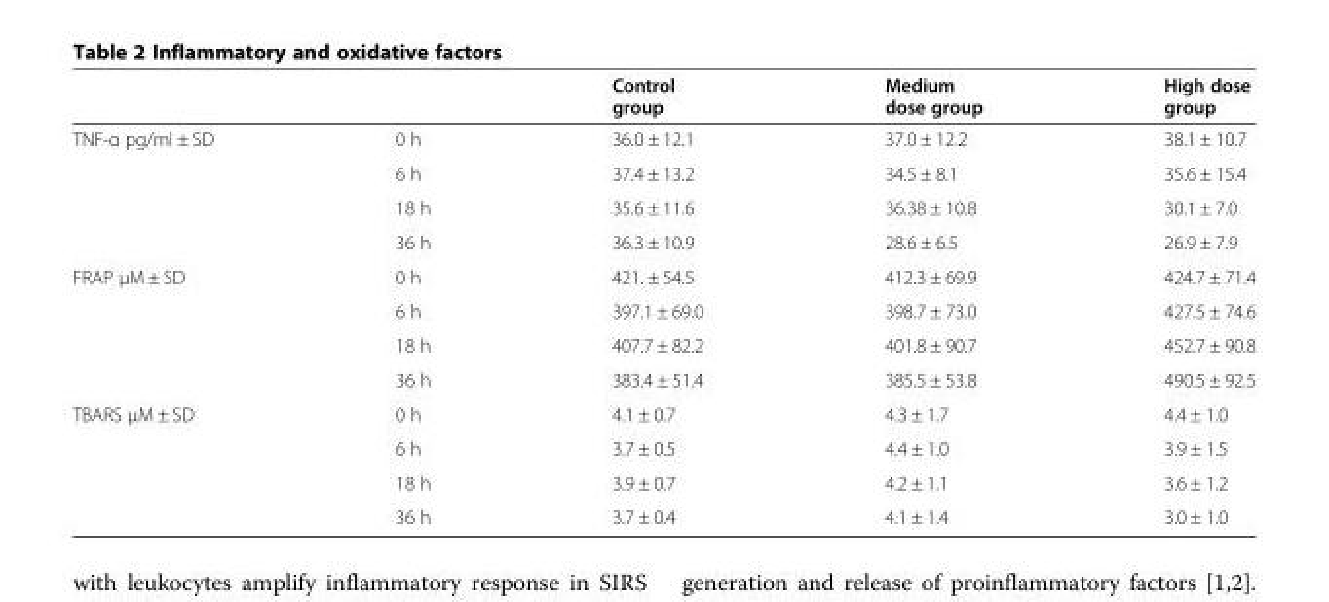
<table><thead><tr><td></td><td></td><td>Control group</td><td>Medium dose group</td><td>High dose group</td></tr></thead><tbody><tr><td rowspan="4">TNF-α pg/ml ± SD</td><td>0 h</td><td>36.0 ± 12.1</td><td>37.0 ± 12.2</td><td>38.1 ± 10.7</td></tr><tr><td>6 h</td><td>37.4 ± 13.2</td><td>34.5 ± 8.1</td><td>35.6 ± 15.4</td></tr><tr><td>18 h</td><td>35.6 ± 11.6</td><td>36.38 ± 10.8</td><td>30.1 ± 7.0</td></tr><tr><td>36 h</td><td>36.3 ± 10.9</td><td>28.6 ± 6.5</td><td>26.9 ± 7.9</td></tr><tr><td rowspan="4">FRAP μM ± SD</td><td>0 h</td><td>421. ± 54.5</td><td>412.3 ± 69.9</td><td>424.7 ± 71.4</td></tr><tr><td>6 h</td><td>397.1 ± 69.0</td><td>398.7 ± 73.0</td><td>427.5 ± 74.6</td></tr><tr><td>18 h</td><td>407.7 ± 82.2</td><td>401.8 ± 90.7</td><td>452.7 ± 90.8</td></tr><tr><td>36 h</td><td>383.4 ± 51.4</td><td>385.5 ± 53.8</td><td>490.5 ± 92.5</td></tr><tr><td rowspan="4">TBARS μM ± SD</td><td>0 h</td><td>4.1 ± 0.7</td><td>4.3 ± 1.7</td><td>4.4 ± 1.0</td></tr><tr><td>6 h</td><td>3.7 ± 0.5</td><td>4.4 ± 1.0</td><td>3.9 ± 1.5</td></tr><tr><td>18 h</td><td>3.9 ± 0.7</td><td>4.2 ± 1.1</td><td>3.6 ± 1.2</td></tr><tr><td>36 h</td><td>3.7 ± 0.4</td><td>4.1 ± 1.4</td><td>3.0 ± 1.0</td></tr></tbody></table>